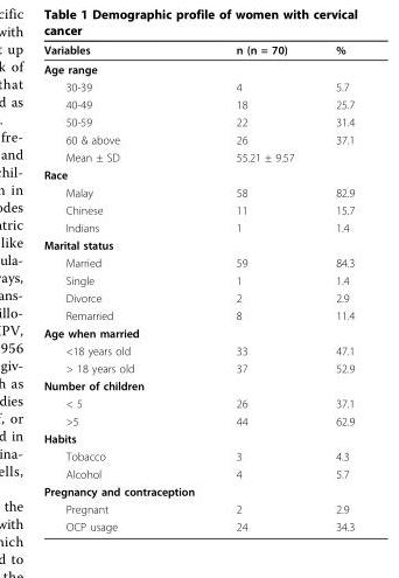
<table><thead><tr><td>Variables</td><td>n (n = 70)</td><td>%</td></tr></thead><tbody><tr><td colspan="3">Age range</td></tr><tr><td>30-39</td><td>4</td><td>5.7</td></tr><tr><td>40-49</td><td>18</td><td>25.7</td></tr><tr><td>50-59</td><td>22</td><td>31.4</td></tr><tr><td>60 &amp; above</td><td>26</td><td>37.1</td></tr><tr><td>Mean ± SD</td><td>55.21 ± 9.57</td><td></td></tr><tr><td colspan="3">Race</td></tr><tr><td>Malay</td><td>58</td><td>82.9</td></tr><tr><td>Chinese</td><td>11</td><td>15.7</td></tr><tr><td>Indians</td><td>1</td><td>1.4</td></tr><tr><td colspan="3">Marital status</td></tr><tr><td>Married</td><td>59</td><td>84.3</td></tr><tr><td>Single</td><td>1</td><td>1.4</td></tr><tr><td>Divorce</td><td>2</td><td>2.9</td></tr><tr><td>Remarried</td><td>8</td><td>11.4</td></tr><tr><td colspan="3">Age when married</td></tr><tr><td>&lt;18 years old</td><td>33</td><td>47.1</td></tr><tr><td>&gt; 18 years old</td><td>37</td><td>52.9</td></tr><tr><td colspan="3">Number of children</td></tr><tr><td>&lt; 5</td><td>26</td><td>37.1</td></tr><tr><td>&gt;5</td><td>44</td><td>62.9</td></tr><tr><td colspan="3">Habits</td></tr><tr><td>Tobacco</td><td>3</td><td>4.3</td></tr><tr><td>Alcohol</td><td>4</td><td>5.7</td></tr><tr><td colspan="3">Pregnancy and contraception</td></tr><tr><td>Pregnant</td><td>2</td><td>2.9</td></tr><tr><td>OCP usage</td><td>24</td><td>34.3</td></tr></tbody></table>